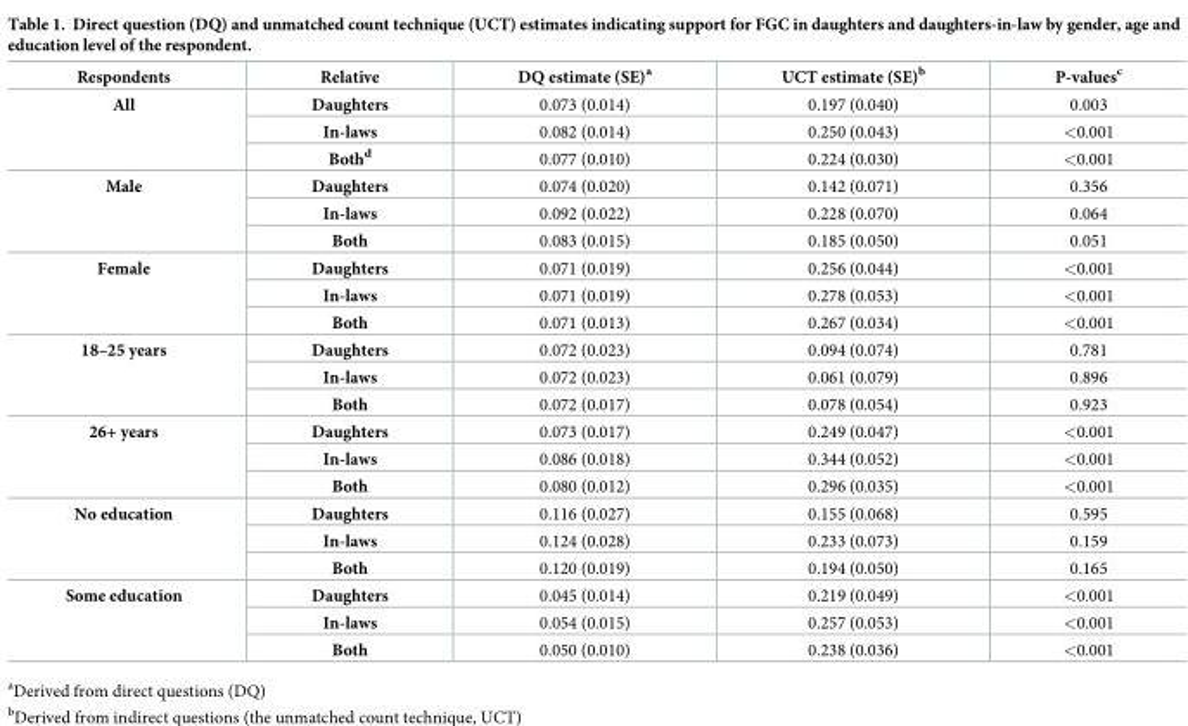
<table><thead><tr><td>Respondents</td><td>Relative</td><td>DQ estimate (SE)<sup>a</sup></td><td>UCT estimate (SE)<sup>b</sup></td><td>P-values<sup>c</sup></td></tr></thead><tbody><tr><td rowspan="3">All</td><td>Daughters</td><td>0.073 (0.014)</td><td>0.197 (0.040)</td><td>0.003</td></tr><tr><td>In-laws</td><td>0.082 (0.014)</td><td>0.250 (0.043)</td><td>&lt;0.001</td></tr><tr><td>Both<sup>d</sup></td><td>0.077 (0.010)</td><td>0.224 (0.030)</td><td>&lt;0.001</td></tr><tr><td rowspan="3">Male</td><td>Daughters</td><td>0.074 (0.020)</td><td>0.142 (0.071)</td><td>0.356</td></tr><tr><td>In-laws</td><td>0.092 (0.022)</td><td>0.228 (0.070)</td><td>0.064</td></tr><tr><td>Both</td><td>0.083 (0.015)</td><td>0.185 (0.050)</td><td>0.051</td></tr><tr><td rowspan="3">Female</td><td>Daughters</td><td>0.071 (0.019)</td><td>0.256 (0.044)</td><td>&lt;0.001</td></tr><tr><td>In-laws</td><td>0.071 (0.019)</td><td>0.278 (0.053)</td><td>&lt;0.001</td></tr><tr><td>Both</td><td>0.071 (0.013)</td><td>0.267 (0.034)</td><td>&lt;0.001</td></tr><tr><td rowspan="3">18–25 years</td><td>Daughters</td><td>0.072 (0.023)</td><td>0.094 (0.074)</td><td>0.781</td></tr><tr><td>In-laws</td><td>0.072 (0.023)</td><td>0.061 (0.079)</td><td>0.896</td></tr><tr><td>Both</td><td>0.072 (0.017)</td><td>0.078 (0.054)</td><td>0.923</td></tr><tr><td rowspan="3">26+ years</td><td>Daughters</td><td>0.073 (0.017)</td><td>0.249 (0.047)</td><td>&lt;0.001</td></tr><tr><td>In-laws</td><td>0.086 (0.018)</td><td>0.344 (0.052)</td><td>&lt;0.001</td></tr><tr><td>Both</td><td>0.080 (0.012)</td><td>0.296 (0.035)</td><td>&lt;0.001</td></tr><tr><td rowspan="3">No education</td><td>Daughters</td><td>0.116 (0.027)</td><td>0.155 (0.068)</td><td>0.595</td></tr><tr><td>In-laws</td><td>0.124 (0.028)</td><td>0.233 (0.073)</td><td>0.159</td></tr><tr><td>Both</td><td>0.120 (0.019)</td><td>0.194 (0.050)</td><td>0.165</td></tr><tr><td rowspan="3">Some education</td><td>Daughters</td><td>0.045 (0.014)</td><td>0.219 (0.049)</td><td>&lt;0.001</td></tr><tr><td>In-laws</td><td>0.054 (0.015)</td><td>0.257 (0.053)</td><td>&lt;0.001</td></tr><tr><td>Both</td><td>0.050 (0.010)</td><td>0.238 (0.036)</td><td>&lt;0.001</td></tr></tbody></table>